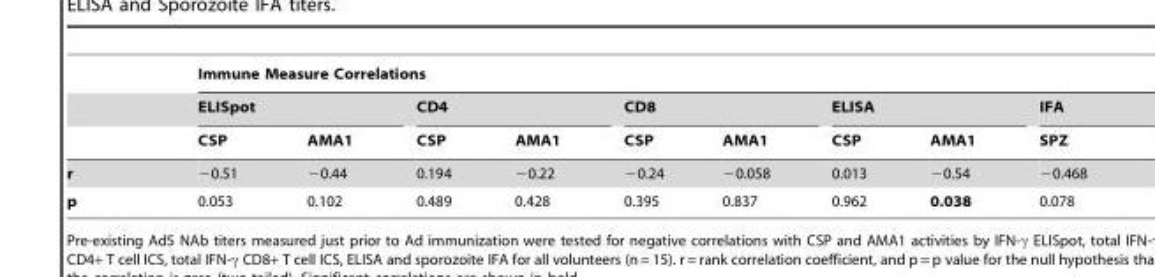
<table><thead><tr><td rowspan="3"></td><td colspan="9">Immune Measure Correlations</td></tr><tr><td colspan="2">ELISpot</td><td colspan="2">CD4</td><td colspan="2">CD8</td><td colspan="2">ELISA</td><td rowspan="2">IFA SPZ</td></tr><tr><td>CSP</td><td>AMA1</td><td>CSP</td><td>AMA1</td><td>CSP</td><td>AMA1</td><td>CSP</td><td>AMA1</td></tr></thead><tbody><tr><td>r</td><td>−0.51</td><td>−0.44</td><td>0.194</td><td>−0.22</td><td>−0.24</td><td>−0.058</td><td>0.013</td><td>−0.54</td><td>−0.468</td></tr><tr><td>p</td><td>0.053</td><td>0.102</td><td>0.489</td><td>0.428</td><td>0.395</td><td>0.837</td><td>0.962</td><td>0.038</td><td>0.078</td></tr></tbody></table>